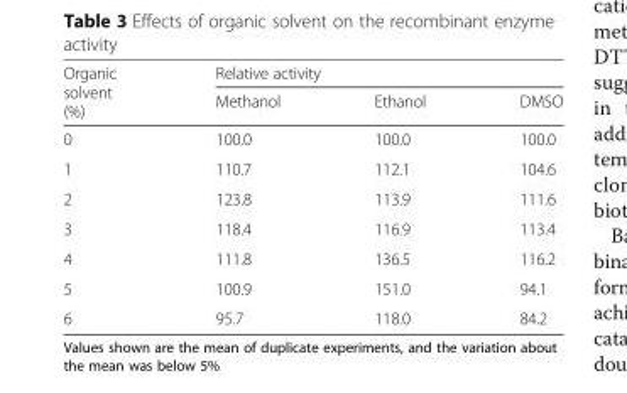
<table><thead><tr><td rowspan="2">Organic solvent (%)</td><td colspan="3">Relative activity</td></tr><tr><td>Methanol</td><td>Ethanol</td><td>DMSO</td></tr></thead><tbody><tr><td>0</td><td>100.0</td><td>100.0</td><td>100.0</td></tr><tr><td>1</td><td>110.7</td><td>112.1</td><td>104.6</td></tr><tr><td>2</td><td>123.8</td><td>113.9</td><td>111.6</td></tr><tr><td>3</td><td>118.4</td><td>116.9</td><td>113.4</td></tr><tr><td>4</td><td>111.8</td><td>136.5</td><td>116.2</td></tr><tr><td>5</td><td>100.9</td><td>151.0</td><td>94.1</td></tr><tr><td>6</td><td>95.7</td><td>118.0</td><td>84.2</td></tr></tbody></table>